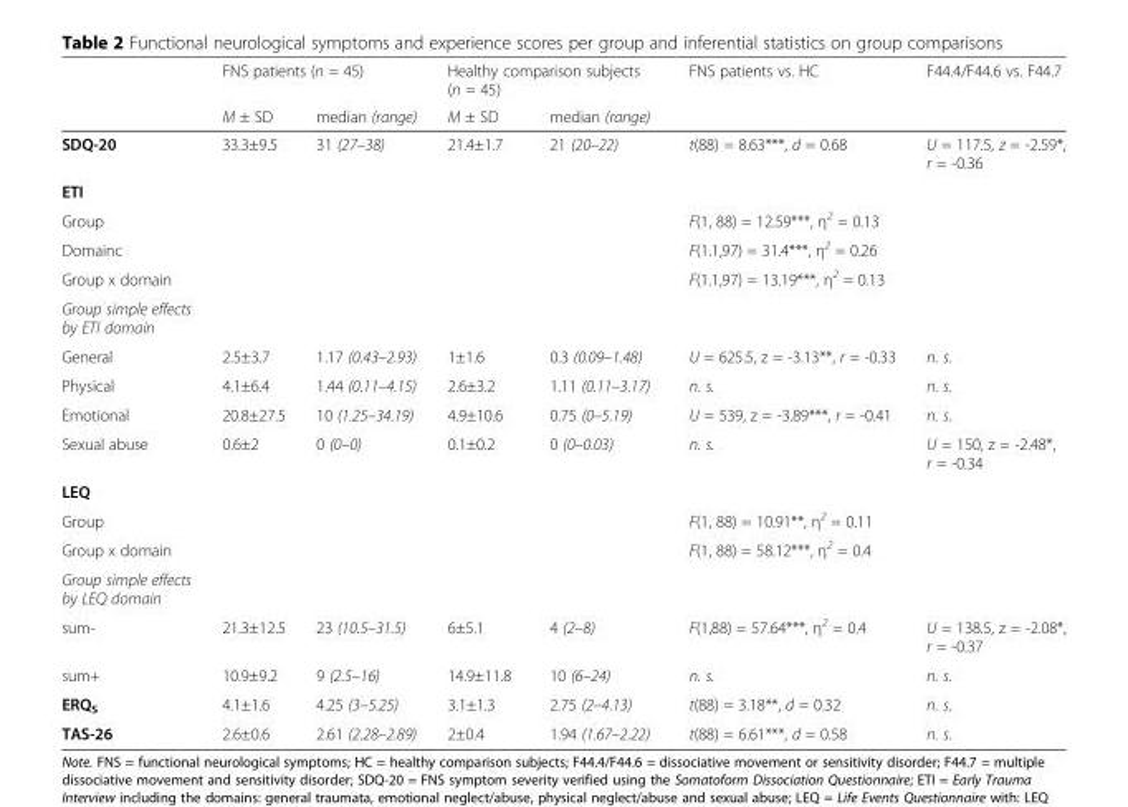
<table><thead><tr><td rowspan="2"></td><td colspan="2">FNS patients (n = 45)</td><td colspan="2">Healthy comparison subjects (n = 45)</td><td rowspan="2">FNS patients vs. HC</td><td rowspan="2">F44.4/F44.6 vs. F44.7</td></tr><tr><td>M ± SD</td><td>median (range)</td><td>M ± SD</td><td>median (range)</td></tr></thead><tbody><tr><td>SDQ-20</td><td>33.3±9.5</td><td>31 (27–38)</td><td>21.4±1.7</td><td>21 (20–22)</td><td>t(88) = 8.63***, d = 0.68</td><td>U = 117.5, z = -2.59*, r = -0.36</td></tr><tr><td colspan="7">ETI</td></tr><tr><td>Group</td><td></td><td></td><td></td><td></td><td>F(1, 88) = 12.59***, η<sup>2</sup> = 0.13</td><td></td></tr><tr><td>Domainc</td><td></td><td></td><td></td><td></td><td>F(1.1,97) = 31.4***, η<sup>2</sup> = 0.26</td><td></td></tr><tr><td>Group x domain</td><td></td><td></td><td></td><td></td><td>F(1.1,97) = 13.19***, η<sup>2</sup> = 0.13</td><td></td></tr><tr><td colspan="7">Group simple effects by ETI domain</td></tr><tr><td>General</td><td>2.5±3.7</td><td>1.17 (0.43–2.93)</td><td>1±1.6</td><td>0.3 (0.09–1.48)</td><td>U = 625.5, z = -3.13**, r = -0.33</td><td>n. s.</td></tr><tr><td>Physical</td><td>4.1±6.4</td><td>1.44 (0.11–4.15)</td><td>2.6±3.2</td><td>1.11 (0.11–3.17)</td><td>n. s.</td><td>n. s.</td></tr><tr><td>Emotional</td><td>20.8±27.5</td><td>10 (1.25–34.19)</td><td>4.9±10.6</td><td>0.75 (0–5.19)</td><td>U = 539, z = -3.89***, r = -0.41</td><td>n. s.</td></tr><tr><td>Sexual abuse</td><td>0.6±2</td><td>0 (0–0)</td><td>0.1±0.2</td><td>0 (0–0.03)</td><td>n. s.</td><td>U = 150, z = -2.48*, r = -0.34</td></tr><tr><td colspan="7">LEQ</td></tr><tr><td>Group</td><td></td><td></td><td></td><td></td><td>F(1, 88) = 10.91**, η<sup>2</sup> = 0.11</td><td></td></tr><tr><td>Group x domain</td><td></td><td></td><td></td><td></td><td>F(1, 88) = 58.12***, η<sup>2</sup> = 0.4</td><td></td></tr><tr><td colspan="7">Group simple effects by LEQ domain</td></tr><tr><td>sum-</td><td>21.3±12.5</td><td>23 (10.5–31.5)</td><td>6±5.1</td><td>4 (2–8)</td><td>F(1,88) = 57.64***, η<sup>2</sup> = 0.4</td><td>U = 138.5, z = -2.08*, r = -0.37</td></tr><tr><td>sum+</td><td>10.9±9.2</td><td>9 (2.5–16)</td><td>14.9±11.8</td><td>10 (6–24)</td><td>n. s.</td><td>n. s.</td></tr><tr><td>ERQ<sub>S</sub></td><td>4.1±1.6</td><td>4.25 (3–5.25)</td><td>3.1±1.3</td><td>2.75 (2–4.13)</td><td>t(88) = 3.18**, d = 0.32</td><td>n. s.</td></tr><tr><td>TAS-26</td><td>2.6±0.6</td><td>2.61 (2.28–2.89)</td><td>2±0.4</td><td>1.94 (1.67–2.22)</td><td>t(88) = 6.61***, d = 0.58</td><td>n. s.</td></tr></tbody></table>